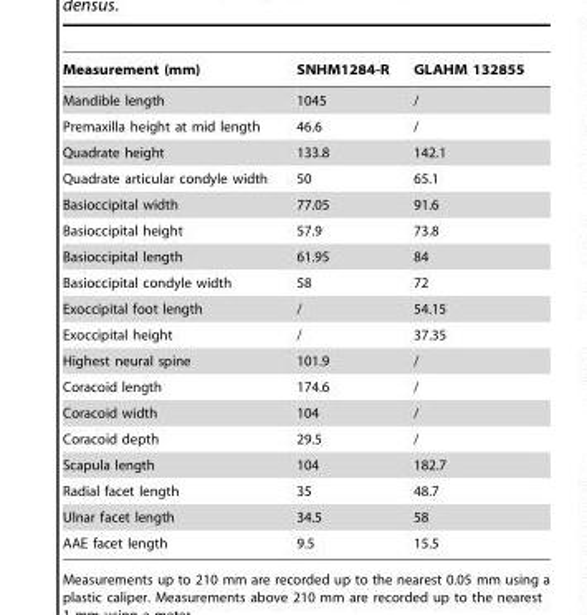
<table><thead><tr><td>Measurement (mm)</td><td>SNHM1284-R</td><td>GLAHM 132855</td></tr></thead><tbody><tr><td>Mandible length</td><td>1045</td><td>/</td></tr><tr><td>Premaxilla height at mid length</td><td>46.6</td><td>/</td></tr><tr><td>Quadrate height</td><td>133.8</td><td>142.1</td></tr><tr><td>Quadrate articular condyle width</td><td>50</td><td>65.1</td></tr><tr><td>Basioccipital width</td><td>77.05</td><td>91.6</td></tr><tr><td>Basioccipital height</td><td>57.9</td><td>73.8</td></tr><tr><td>Basioccipital length</td><td>61.95</td><td>84</td></tr><tr><td>Basioccipital condyle width</td><td>58</td><td>72</td></tr><tr><td>Exoccipital foot length</td><td>/</td><td>54.15</td></tr><tr><td>Exoccipital height</td><td>/</td><td>37.35</td></tr><tr><td>Highest neural spine</td><td>101.9</td><td>/</td></tr><tr><td>Coracoid length</td><td>174.6</td><td>/</td></tr><tr><td>Coracoid width</td><td>104</td><td>/</td></tr><tr><td>Coracoid depth</td><td>29.5</td><td>/</td></tr><tr><td>Scapula length</td><td>104</td><td>182.7</td></tr><tr><td>Radial facet length</td><td>35</td><td>48.7</td></tr><tr><td>Ulnar facet length</td><td>34.5</td><td>58</td></tr><tr><td>AAE facet length</td><td>9.5</td><td>15.5</td></tr></tbody></table>